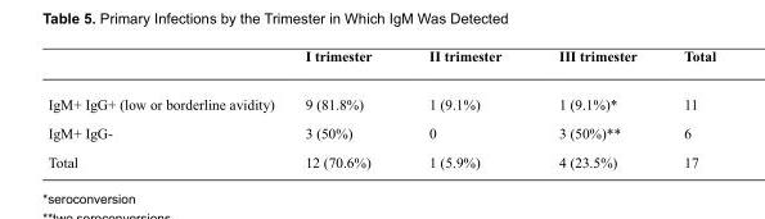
<table><thead><tr><td></td><td>I trimester</td><td>II trimester</td><td>III trimester</td><td>Total</td></tr></thead><tbody><tr><td>IgM+ IgG+ (low or borderline avidity)</td><td>9 (81.8%)</td><td>1 (9.1%)</td><td>1 (9.1%)*</td><td>11</td></tr><tr><td>IgM+ IgG-</td><td>3 (50%)</td><td>0</td><td>3 (50%)**</td><td>6</td></tr><tr><td>Total</td><td>12 (70.6%)</td><td>1 (5.9%)</td><td>4 (23.5%)</td><td>17</td></tr></tbody></table>